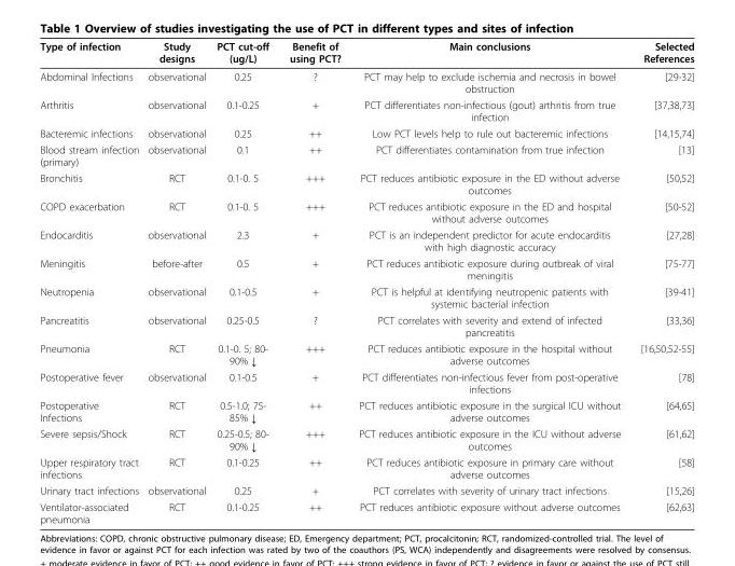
<table><thead><tr><td>Type of infection</td><td>Study designs</td><td>PCT cut-off (ug/L)</td><td>Benefit of using PCT?</td><td>Main conclusions</td><td>Selected References</td></tr></thead><tbody><tr><td>Abdominal Infections</td><td>observational</td><td>0.25</td><td>?</td><td>PCT may help to exclude ischemia and necrosis in bowel obstruction</td><td>[29-32]</td></tr><tr><td>Arthritis</td><td>observational</td><td>0.1-0.25</td><td>+</td><td>PCT differentiates non-infectious (gout) arthritis from true infection</td><td>[37,38,73]</td></tr><tr><td>Bacteremic infections</td><td>observational</td><td>0.25</td><td>++</td><td>Low PCT levels help to rule out bacteremic infections</td><td>[14,15,74]</td></tr><tr><td>Blood stream infection (primary)</td><td>observational</td><td>0.1</td><td>++</td><td>PCT differentiates contamination from true infection</td><td>[13]</td></tr><tr><td>Bronchitis</td><td>RCT</td><td>0.1-0. 5</td><td>+++</td><td>PCT reduces antibiotic exposure in the ED without adverse outcomes</td><td>[50,52]</td></tr><tr><td>COPD exacerbation</td><td>RCT</td><td>0.1-0. 5</td><td>+++</td><td>PCT reduces antibiotic exposure in the ED and hospital without adverse outcomes</td><td>[50-52]</td></tr><tr><td>Endocarditis</td><td>observational</td><td>2.3</td><td>+</td><td>PCT is an independent predictor for acute endocarditis with high diagnostic accuracy</td><td>[27,28]</td></tr><tr><td>Meningitis</td><td>before-after</td><td>0.5</td><td>+</td><td>PCT reduces antibiotic exposure during outbreak of viral meningitis</td><td>[75-77]</td></tr><tr><td>Neutropenia</td><td>observational</td><td>0.1-0.5</td><td>+</td><td>PCT is helpful at identifying neutropenic patients with systemic bacterial infection</td><td>[39-41]</td></tr><tr><td>Pancreatitis</td><td>observational</td><td>0.25-0.5</td><td>?</td><td>PCT correlates with severity and extend of infected pancreatitis</td><td>[33,36]</td></tr><tr><td>Pneumonia</td><td>RCT</td><td>0.1-0. 5; 80- 90% ↓</td><td>+++</td><td>PCT reduces antibiotic exposure in the hospital without adverse outcomes</td><td>[16,50,52-55]</td></tr><tr><td>Postoperative fever</td><td>observational</td><td>0.1-0.5</td><td>+</td><td>PCT differentiates non-infectious fever from post-operative infections</td><td>[78]</td></tr><tr><td>Postoperative Infections</td><td>RCT</td><td>0.5-1.0; 75- 85% ↓</td><td>++</td><td>PCT reduces antibiotic exposure in the surgical ICU without adverse outcomes</td><td>[64,65]</td></tr><tr><td>Severe sepsis/Shock</td><td>RCT</td><td>0.25-0.5; 80- 90% ↓</td><td>+++</td><td>PCT reduces antibiotic exposure in the ICU without adverse outcomes</td><td>[61,62]</td></tr><tr><td>Upper respiratory tract infections</td><td>RCT</td><td>0.1-0.25</td><td>++</td><td>PCT reduces antibiotic exposure in primary care without adverse outcomes</td><td>[58]</td></tr><tr><td>Urinary tract infections</td><td>observational</td><td>0.25</td><td>+</td><td>PCT correlates with severity of urinary tract infections</td><td>[15,26]</td></tr><tr><td>Ventilator-associated pneumonia</td><td>RCT</td><td>0.1-0.25</td><td>++</td><td>PCT reduces antibiotic exposure without adverse outcomes</td><td>[62,63]</td></tr></tbody></table>